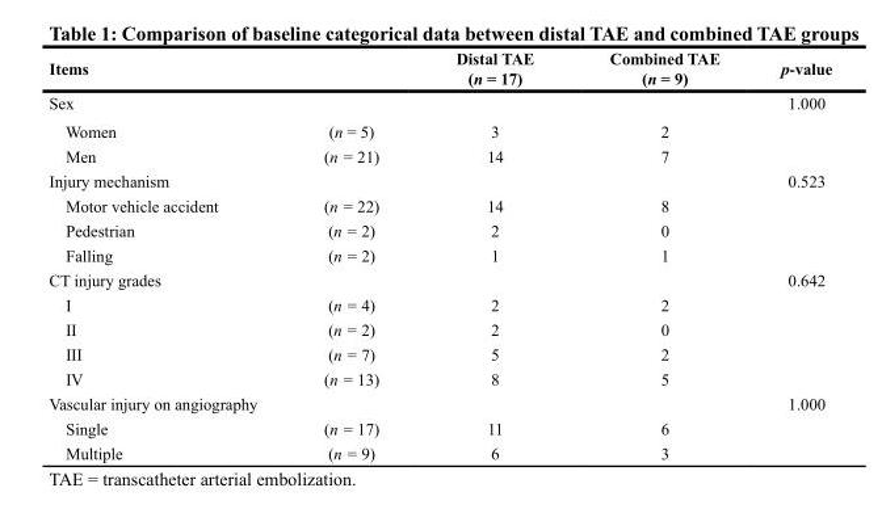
<table><thead><tr><td>Items</td><td></td><td>Distal TAE (n = 17)</td><td>Combined TAE (n = 9)</td><td>p-value</td></tr></thead><tbody><tr><td>Sex</td><td></td><td></td><td></td><td>1.000</td></tr><tr><td>Women</td><td>(n = 5)</td><td>3</td><td>2</td><td></td></tr><tr><td>Men</td><td>(n = 21)</td><td>14</td><td>7</td><td></td></tr><tr><td>Injury mechanism</td><td></td><td></td><td></td><td>0.523</td></tr><tr><td>Motor vehicle accident</td><td>(n = 22)</td><td>14</td><td>8</td><td></td></tr><tr><td>Pedestrian</td><td>(n = 2)</td><td>2</td><td>0</td><td></td></tr><tr><td>Falling</td><td>(n = 2)</td><td>1</td><td>1</td><td></td></tr><tr><td>CT injury grades</td><td></td><td></td><td></td><td>0.642</td></tr><tr><td>I</td><td>(n = 4)</td><td>2</td><td>2</td><td></td></tr><tr><td>II</td><td>(n = 2)</td><td>2</td><td>0</td><td></td></tr><tr><td>III</td><td>(n = 7)</td><td>5</td><td>2</td><td></td></tr><tr><td>IV</td><td>(n = 13)</td><td>8</td><td>5</td><td></td></tr><tr><td>Vascular injury on angiography</td><td></td><td></td><td></td><td>1.000</td></tr><tr><td>Single</td><td>(n = 17)</td><td>11</td><td>6</td><td></td></tr><tr><td>Multiple</td><td>(n = 9)</td><td>6</td><td>3</td><td></td></tr></tbody></table>